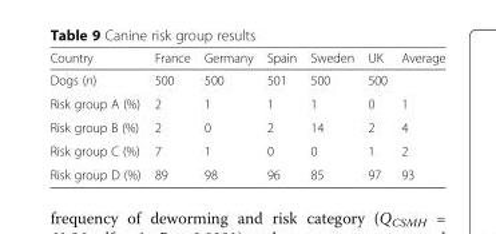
<table><thead><tr><td>Country</td><td>France</td><td>Germany</td><td>Spain</td><td>Sweden</td><td>UK</td><td>Average</td></tr></thead><tbody><tr><td>Dogs (n)</td><td>500</td><td>500</td><td>501</td><td>500</td><td>500</td><td></td></tr><tr><td>Risk group A (%)</td><td>2</td><td>1</td><td>1</td><td>1</td><td>0</td><td>1</td></tr><tr><td>Risk group B (%)</td><td>2</td><td>0</td><td>2</td><td>14</td><td>2</td><td>4</td></tr><tr><td>Risk group C (%)</td><td>7</td><td>1</td><td>0</td><td>0</td><td>1</td><td>2</td></tr><tr><td>Risk group D (%)</td><td>89</td><td>98</td><td>96</td><td>85</td><td>97</td><td>93</td></tr></tbody></table>